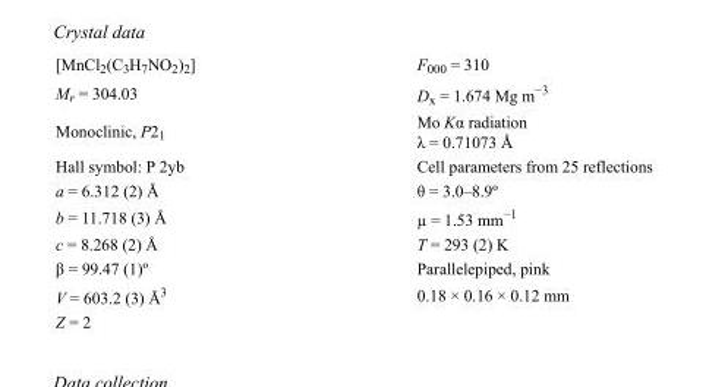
<table><tbody><tr><td>[MnCl<sub>2</sub>(C<sub>3</sub>H<sub>7</sub>NO<sub>2</sub>)<sub>2</sub>]</td><td>F<sub>000</sub> = 310</td></tr><tr><td>M<sub>r</sub> = 304.03</td><td>D<sub>x</sub> = 1.674 Mg m<sup>−3</sup></td></tr><tr><td>Monoclinic, P2<sub>1</sub></td><td>Mo Kα radiation λ = 0.71073 Å</td></tr><tr><td>Hall symbol: P 2yb</td><td>Cell parameters from 25 reflections</td></tr><tr><td>a = 6.312 (2) Å</td><td>θ = 3.0–8.9º</td></tr><tr><td>b = 11.718 (3) Å</td><td>µ = 1.53 mm<sup>−1</sup></td></tr><tr><td>c = 8.268 (2) Å</td><td>T = 293 (2) K</td></tr><tr><td>β = 99.47 (1)º</td><td>Parallelepiped, pink</td></tr><tr><td>V = 603.2 (3) Å<sup>3</sup></td><td>0.18 × 0.16 × 0.12 mm</td></tr><tr><td>Z = 2</td><td></td></tr></tbody></table>